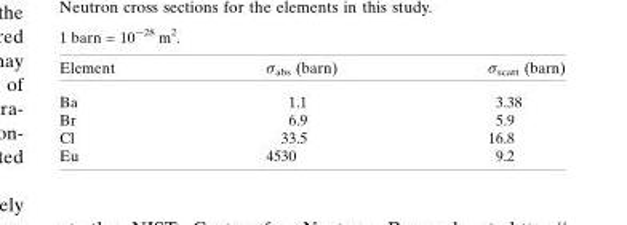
<table><thead><tr><td>Element</td><td>σ<sub>abs</sub> (barn)</td><td>σ<sub>scatt</sub> (barn)</td></tr></thead><tbody><tr><td>Ba</td><td>1.1</td><td>3.38</td></tr><tr><td>Br</td><td>6.9</td><td>5.9</td></tr><tr><td>Cl</td><td>33.5</td><td>16.8</td></tr><tr><td>Eu</td><td>4530</td><td>9.2</td></tr></tbody></table>